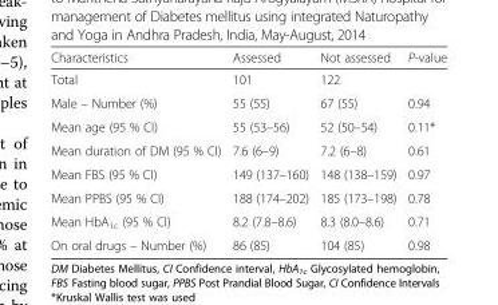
<table><thead><tr><td>Characteristics</td><td>Assessed</td><td>Not assessed</td><td>P-value</td></tr></thead><tbody><tr><td>Total</td><td>101</td><td>122</td><td></td></tr><tr><td>Male – Number (%)</td><td>55 (55)</td><td>67 (55)</td><td>0.94</td></tr><tr><td>Mean age (95 % CI)</td><td>55 (53–56)</td><td>52 (50–54)</td><td>0.11*</td></tr><tr><td>Mean duration of DM (95 % CI)</td><td>7.6 (6–9)</td><td>7.2 (6–8)</td><td>0.61</td></tr><tr><td>Mean FBS (95 % CI)</td><td>149 (137–160)</td><td>148 (138–159)</td><td>0.97</td></tr><tr><td>Mean PPBS (95 % CI)</td><td>188 (174–202)</td><td>185 (173–198)</td><td>0.78</td></tr><tr><td>Mean HbA<sub>1c</sub> (95 % CI)</td><td>8.2 (7.8–8.6)</td><td>8.3 (8.0–8.6)</td><td>0.71</td></tr><tr><td>On oral drugs – Number (%)</td><td>86 (85)</td><td>104 (85)</td><td>0.98</td></tr></tbody></table>